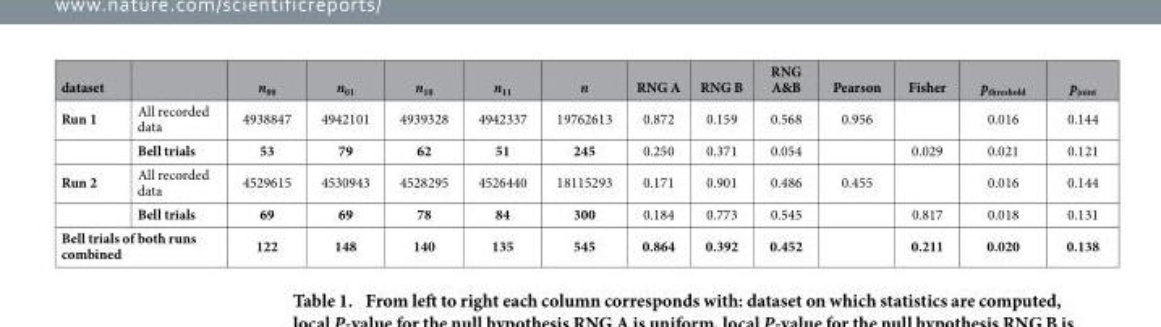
<table><thead><tr><td>dataset</td><td></td><td>n<sub>00</sub></td><td>n<sub>01</sub></td><td>n<sub>10</sub></td><td>n<sub>11</sub></td><td>n</td><td>RNG A</td><td>RNG B</td><td>RNG A&amp;B</td><td>Pearson</td><td>Fisher</td><td>p<sub>threshold</sub></td><td>p<sub>joint</sub></td></tr></thead><tbody><tr><td rowspan="2">Run 1</td><td>All recorded data</td><td>4938847</td><td>4942101</td><td>4939328</td><td>4942337</td><td>19762613</td><td>0.872</td><td>0.159</td><td>0.568</td><td>0.956</td><td></td><td>0.016</td><td>0.144</td></tr><tr><td>Bell trials</td><td>53</td><td>79</td><td>62</td><td>51</td><td>245</td><td>0.250</td><td>0.371</td><td>0.054</td><td></td><td>0.029</td><td>0.021</td><td>0.121</td></tr><tr><td rowspan="2">Run 2</td><td>All recorded data</td><td>4529615</td><td>4530943</td><td>4528295</td><td>4526440</td><td>18115293</td><td>0.171</td><td>0.901</td><td>0.486</td><td>0.455</td><td></td><td>0.016</td><td>0.144</td></tr><tr><td>Bell trials</td><td>69</td><td>69</td><td>78</td><td>84</td><td>300</td><td>0.184</td><td>0.773</td><td>0.545</td><td></td><td>0.817</td><td>0.018</td><td>0.131</td></tr><tr><td colspan="2">Bell trials of both runs combined</td><td>122</td><td>148</td><td>140</td><td>135</td><td>545</td><td>0.864</td><td>0.392</td><td>0.452</td><td></td><td>0.211</td><td>0.020</td><td>0.138</td></tr></tbody></table>